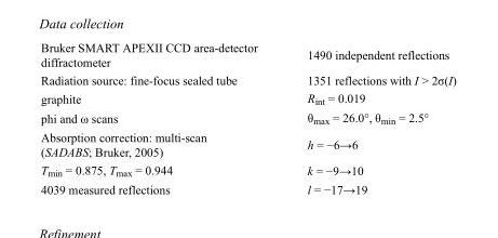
<table><tbody><tr><td>Bruker SMART APEXII CCD area-detector diffractometer</td><td>1490 independent reflections</td></tr><tr><td>Radiation source: fine-focus sealed tube</td><td>1351 reflections with I &gt; 2σ(I)</td></tr><tr><td>graphite</td><td>R<sub>int</sub> = 0.019</td></tr><tr><td>phi and ω scans</td><td>θ<sub>max</sub> = 26.0°, θ<sub>min</sub> = 2.5°</td></tr><tr><td>Absorption correction: multi-scan (SADABS; Bruker, 2005)</td><td>h = −6→6</td></tr><tr><td>T<sub>min</sub> = 0.875, T<sub>max</sub> = 0.944</td><td>k = −9→10</td></tr><tr><td>4039 measured reflections</td><td>l = −17→19</td></tr></tbody></table>